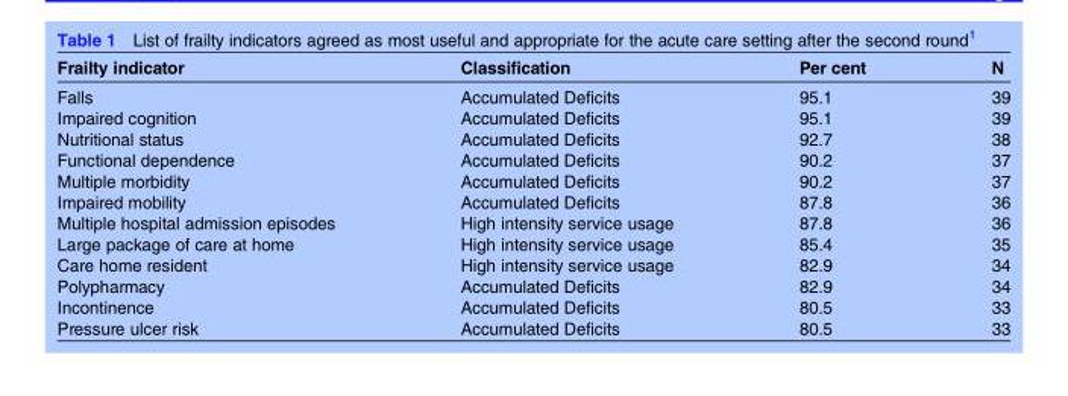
<table><thead><tr><td>Frailty indicator</td><td>Classification</td><td>Per cent</td><td>N</td></tr></thead><tbody><tr><td>Falls</td><td>Accumulated Deficits</td><td>95.1</td><td>39</td></tr><tr><td>Impaired cognition</td><td>Accumulated Deficits</td><td>95.1</td><td>39</td></tr><tr><td>Nutritional status</td><td>Accumulated Deficits</td><td>92.7</td><td>38</td></tr><tr><td>Functional dependence</td><td>Accumulated Deficits</td><td>90.2</td><td>37</td></tr><tr><td>Multiple morbidity</td><td>Accumulated Deficits</td><td>90.2</td><td>37</td></tr><tr><td>Impaired mobility</td><td>Accumulated Deficits</td><td>87.8</td><td>36</td></tr><tr><td>Multiple hospital admission episodes</td><td>High intensity service usage</td><td>87.8</td><td>36</td></tr><tr><td>Large package of care at home</td><td>High intensity service usage</td><td>85.4</td><td>35</td></tr><tr><td>Care home resident</td><td>High intensity service usage</td><td>82.9</td><td>34</td></tr><tr><td>Polypharmacy</td><td>Accumulated Deficits</td><td>82.9</td><td>34</td></tr><tr><td>Incontinence</td><td>Accumulated Deficits</td><td>80.5</td><td>33</td></tr><tr><td>Pressure ulcer risk</td><td>Accumulated Deficits</td><td>80.5</td><td>33</td></tr></tbody></table>